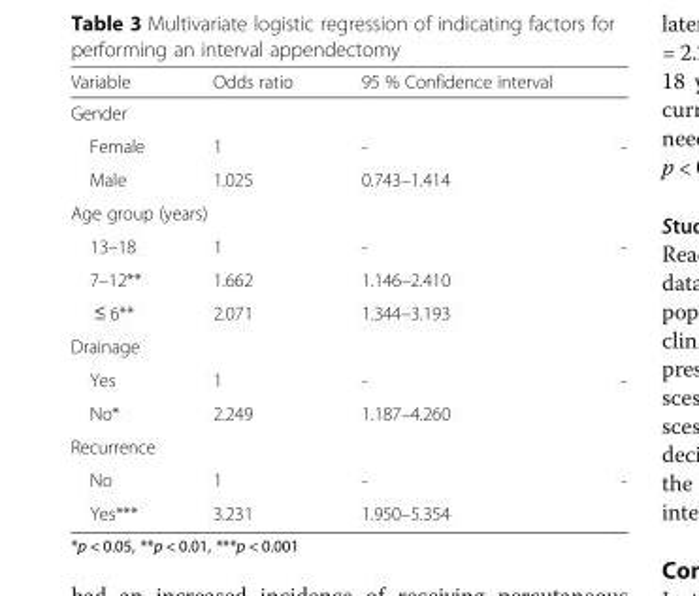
<table><thead><tr><td>Variable</td><td>Odds ratio</td><td>95 % Confidence interval</td><td></td></tr></thead><tbody><tr><td colspan="4">Gender</td></tr><tr><td>Female</td><td>1</td><td>-</td><td>-</td></tr><tr><td>Male</td><td>1.025</td><td>0.743–1.414</td><td></td></tr><tr><td colspan="4">Age group (years)</td></tr><tr><td>13–18</td><td>1</td><td>-</td><td>-</td></tr><tr><td>7–12**</td><td>1.662</td><td>1.146–2.410</td><td></td></tr><tr><td>≤ 6**</td><td>2.071</td><td>1.344–3.193</td><td></td></tr><tr><td colspan="4">Drainage</td></tr><tr><td>Yes</td><td>1</td><td>-</td><td>-</td></tr><tr><td>No*</td><td>2.249</td><td>1.187–4.260</td><td></td></tr><tr><td colspan="4">Recurrence</td></tr><tr><td>No</td><td>1</td><td>-</td><td>-</td></tr><tr><td>Yes***</td><td>3.231</td><td>1.950–5.354</td><td></td></tr></tbody></table>